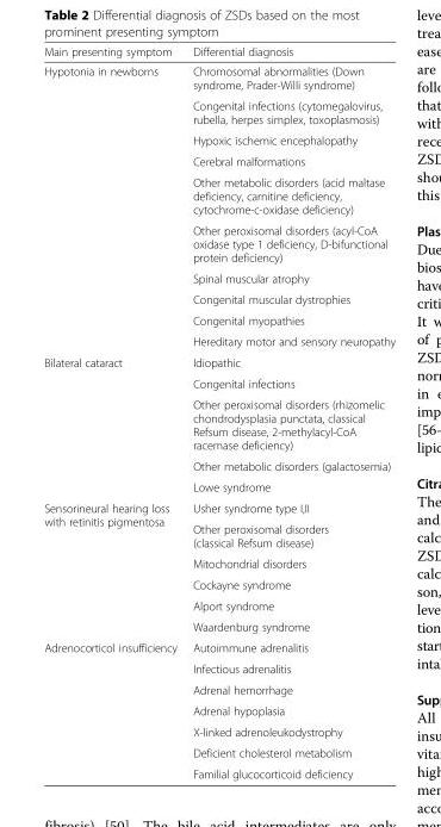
<table><thead><tr><td>Main presenting symptom</td><td>Differential diagnosis</td></tr></thead><tbody><tr><td rowspan="10">Hypotonia in newborns</td><td>Chromosomal abnormalities (Down syndrome, Prader-Willi syndrome)</td></tr><tr><td>Congenital infections (cytomegalovirus, rubella, herpes simplex, toxoplasmosis)</td></tr><tr><td>Hypoxic ischemic encephalopathy</td></tr><tr><td>Cerebral malformations</td></tr><tr><td>Other metabolic disorders (acid maltase deficiency, carnitine deficiency, cytochrome-c-oxidase deficiency)</td></tr><tr><td>Other peroxisomal disorders (acyl-CoA oxidase type 1 deficiency, D-bifunctional protein deficiency)</td></tr><tr><td>Spinal muscular atrophy</td></tr><tr><td>Congenital muscular dystrophies</td></tr><tr><td>Congenital myopathies</td></tr><tr><td>Hereditary motor and sensory neuropathy</td></tr><tr><td rowspan="5">Bilateral cataract</td><td>Idiopathic</td></tr><tr><td>Congenital infections</td></tr><tr><td>Other peroxisomal disorders (rhizomelic chondrodysplasia punctata, classical Refsum disease, 2-methylacyl-CoA racemase deficiency)</td></tr><tr><td>Other metabolic disorders (galactosemia)</td></tr><tr><td>Lowe syndrome</td></tr><tr><td rowspan="6">Sensorineural hearing loss with retinitis pigmentosa</td><td>Usher syndrome type I,II</td></tr><tr><td>Other peroxisomal disorders (classical Refsum disease)</td></tr><tr><td>Mitochondrial disorders</td></tr><tr><td>Cockayne syndrome</td></tr><tr><td>Alport syndrome</td></tr><tr><td>Waardenburg syndrome</td></tr><tr><td rowspan="7">Adrenocorticol insufficiency</td><td>Autoimmune adrenalitis</td></tr><tr><td>Infectious adrenalitis</td></tr><tr><td>Adrenal hemorrhage</td></tr><tr><td>Adrenal hypoplasia</td></tr><tr><td>X-linked adrenoleukodystrophy</td></tr><tr><td>Deficient cholesterol metabolism</td></tr><tr><td>Familial glucocorticoid deficiency</td></tr></tbody></table>